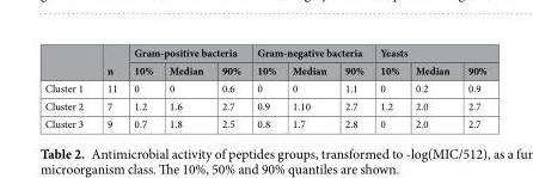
<table><thead><tr><td rowspan="2"></td><td rowspan="2">n</td><td colspan="3">Gram-positive bacteria</td><td colspan="3">Gram-negative bacteria</td><td colspan="3">Yeasts</td></tr><tr><td>10%</td><td>Median</td><td>90%</td><td>10%</td><td>Median</td><td>90%</td><td>10%</td><td>Median</td><td>90%</td></tr></thead><tbody><tr><td>Cluster 1</td><td>11</td><td>0</td><td>0</td><td>0.6</td><td>0</td><td>0</td><td>1.1</td><td>0</td><td>0.2</td><td>0.9</td></tr><tr><td>Cluster 2</td><td>7</td><td>1.2</td><td>1.6</td><td>2.7</td><td>0.9</td><td>1.10</td><td>2.7</td><td>1.2</td><td>2.0</td><td>2.7</td></tr><tr><td>Cluster 3</td><td>9</td><td>0.7</td><td>1.8</td><td>2.5</td><td>0.8</td><td>1.7</td><td>2.8</td><td>0</td><td>2.0</td><td>2.7</td></tr></tbody></table>